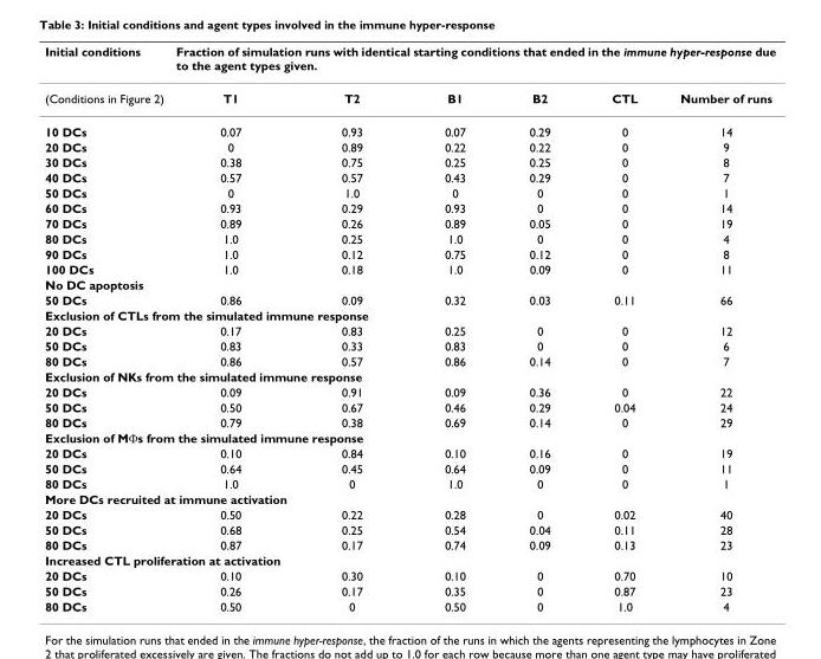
<table><thead><tr><td rowspan="2">Initial conditions (Conditions in Figure 2)</td><td colspan="6">Fraction of simulation runs with identical starting conditions that ended in the immune hyper-response due to the agent types given.</td></tr><tr><td>T1</td><td>T2</td><td>B1</td><td>B2</td><td>CTL</td><td>Number of runs</td></tr></thead><tbody><tr><td>10 DCs</td><td>0.07</td><td>0.93</td><td>0.07</td><td>0.29</td><td>0</td><td>14</td></tr><tr><td>20 DCs</td><td>0</td><td>0.89</td><td>0.22</td><td>0.22</td><td>0</td><td>9</td></tr><tr><td>30 DCs</td><td>0.38</td><td>0.75</td><td>0.25</td><td>0.25</td><td>0</td><td>8</td></tr><tr><td>40 DCs</td><td>0.57</td><td>0.57</td><td>0.43</td><td>0.29</td><td>0</td><td>7</td></tr><tr><td>50 DCs</td><td>0</td><td>1.0</td><td>0</td><td>0</td><td>0</td><td>1</td></tr><tr><td>60 DCs</td><td>0.93</td><td>0.29</td><td>0.93</td><td>0</td><td>0</td><td>14</td></tr><tr><td>70 DCs</td><td>0.89</td><td>0.26</td><td>0.89</td><td>0.05</td><td>0</td><td>19</td></tr><tr><td>80 DCs</td><td>1.0</td><td>0.25</td><td>1.0</td><td>0</td><td>0</td><td>4</td></tr><tr><td>90 DCs</td><td>1.0</td><td>0.12</td><td>0.75</td><td>0.12</td><td>0</td><td>8</td></tr><tr><td>100 DCs</td><td>1.0</td><td>0.18</td><td>1.0</td><td>0.09</td><td>0</td><td>11</td></tr><tr><td colspan="7">No DC apoptosis</td></tr><tr><td>50 DCs</td><td>0.86</td><td>0.09</td><td>0.32</td><td>0.03</td><td>0.11</td><td>66</td></tr><tr><td colspan="7">Exclusion of CTLs from the simulated immune response</td></tr><tr><td>20 DCs</td><td>0.17</td><td>0.83</td><td>0.25</td><td>0</td><td>0</td><td>12</td></tr><tr><td>50 DCs</td><td>0.83</td><td>0.33</td><td>0.83</td><td>0</td><td>0</td><td>6</td></tr><tr><td>80 DCs</td><td>0.86</td><td>0.57</td><td>0.86</td><td>0.14</td><td>0</td><td>7</td></tr><tr><td colspan="7">Exclusion of NKs from the simulated immune response</td></tr><tr><td>20 DCs</td><td>0.09</td><td>0.91</td><td>0.09</td><td>0.36</td><td>0</td><td>22</td></tr><tr><td>50 DCs</td><td>0.50</td><td>0.67</td><td>0.46</td><td>0.29</td><td>0.04</td><td>24</td></tr><tr><td>80 DCs</td><td>0.79</td><td>0.38</td><td>0.69</td><td>0.14</td><td>0</td><td>29</td></tr><tr><td colspan="7">Exclusion of MΦs from the simulated immune response</td></tr><tr><td>20 DCs</td><td>0.10</td><td>0.84</td><td>0.10</td><td>0.16</td><td>0</td><td>19</td></tr><tr><td>50 DCs</td><td>0.64</td><td>0.45</td><td>0.64</td><td>0.09</td><td>0</td><td>11</td></tr><tr><td>80 DCs</td><td>1.0</td><td>0</td><td>1.0</td><td>0</td><td>0</td><td>1</td></tr><tr><td colspan="7">More DCs recruited at immune activation</td></tr><tr><td>20 DCs</td><td>0.50</td><td>0.22</td><td>0.28</td><td>0</td><td>0.02</td><td>40</td></tr><tr><td>50 DCs</td><td>0.68</td><td>0.25</td><td>0.54</td><td>0.04</td><td>0.11</td><td>28</td></tr><tr><td>80 DCs</td><td>0.87</td><td>0.17</td><td>0.74</td><td>0.09</td><td>0.13</td><td>23</td></tr><tr><td colspan="7">Increased CTL proliferation at activation</td></tr><tr><td>20 DCs</td><td>0.10</td><td>0.30</td><td>0.10</td><td>0</td><td>0.70</td><td>10</td></tr><tr><td>50 DCs</td><td>0.26</td><td>0.17</td><td>0.35</td><td>0</td><td>0.87</td><td>23</td></tr><tr><td>80 DCs</td><td>0.50</td><td>0</td><td>0.50</td><td>0</td><td>1.0</td><td>4</td></tr></tbody></table>